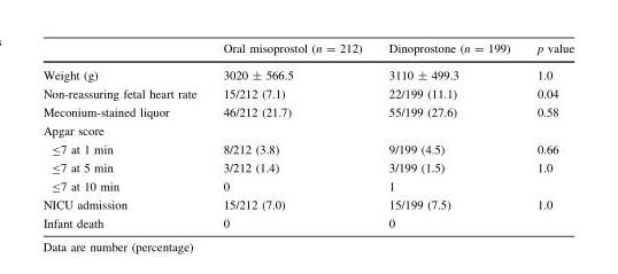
<table><thead><tr><td></td><td>Oral misoprostol (n = 212)</td><td>Dinoprostone (n = 199)</td><td>p value</td></tr></thead><tbody><tr><td>Weight (g)</td><td>3020 ± 566.5</td><td>3110 ± 499.3</td><td>1.0</td></tr><tr><td>Non-reassuring fetal heart rate</td><td>15/212 (7.1)</td><td>22/199 (11.1)</td><td>0.04</td></tr><tr><td>Meconium-stained liquor</td><td>46/212 (21.7)</td><td>55/199 (27.6)</td><td>0.58</td></tr><tr><td colspan="4">Apgar score</td></tr><tr><td>≤7 at 1 min</td><td>8/212 (3.8)</td><td>9/199 (4.5)</td><td>0.66</td></tr><tr><td>≤7 at 5 min</td><td>3/212 (1.4)</td><td>3/199 (1.5)</td><td>1.0</td></tr><tr><td>≤7 at 10 min</td><td>0</td><td>1</td><td></td></tr><tr><td>NICU admission</td><td>15/212 (7.0)</td><td>15/199 (7.5)</td><td>1.0</td></tr><tr><td>Infant death</td><td>0</td><td>0</td><td></td></tr></tbody></table>